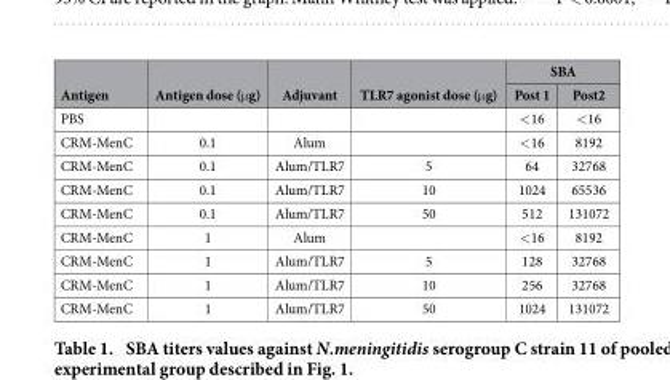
<table><thead><tr><td rowspan="2">Antigen</td><td rowspan="2">Antigen dose (μg)</td><td rowspan="2">Adjuvant</td><td rowspan="2">TLR7 agonist dose (μg)</td><td colspan="2">SBA</td></tr><tr><td>Post 1</td><td>Post2</td></tr></thead><tbody><tr><td>PBS</td><td></td><td></td><td></td><td>&lt;16</td><td>&lt;16</td></tr><tr><td>CRM-MenC</td><td>0.1</td><td>Alum</td><td></td><td>&lt;16</td><td>8192</td></tr><tr><td>CRM-MenC</td><td>0.1</td><td>Alum/TLR7</td><td>5</td><td>64</td><td>32768</td></tr><tr><td>CRM-MenC</td><td>0.1</td><td>Alum/TLR7</td><td>10</td><td>1024</td><td>65536</td></tr><tr><td>CRM-MenC</td><td>0.1</td><td>Alum/TLR7</td><td>50</td><td>512</td><td>131072</td></tr><tr><td>CRM-MenC</td><td>1</td><td>Alum</td><td></td><td>&lt;16</td><td>8192</td></tr><tr><td>CRM-MenC</td><td>1</td><td>Alum/TLR7</td><td>5</td><td>128</td><td>32768</td></tr><tr><td>CRM-MenC</td><td>1</td><td>Alum/TLR7</td><td>10</td><td>256</td><td>32768</td></tr><tr><td>CRM-MenC</td><td>1</td><td>Alum/TLR7</td><td>50</td><td>1024</td><td>131072</td></tr></tbody></table>